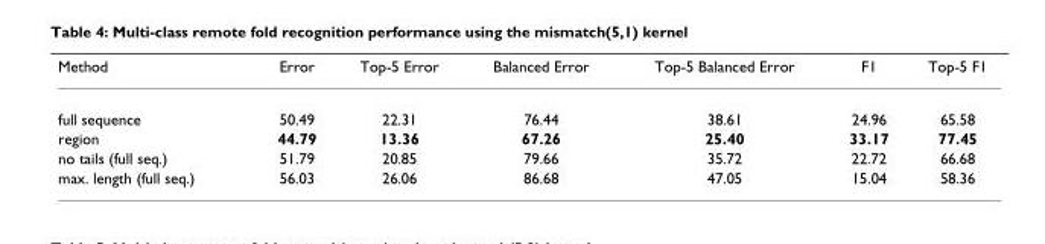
<table><thead><tr><td>Method</td><td>Error</td><td>Top-5 Error</td><td>Balanced Error</td><td>Top-5 Balanced Error</td><td>F1</td><td>Top-5 F1</td></tr></thead><tbody><tr><td>full sequence</td><td>50.49</td><td>22.31</td><td>76.44</td><td>38.61</td><td>24.96</td><td>65.58</td></tr><tr><td>region</td><td>44.79</td><td>13.36</td><td>67.26</td><td>25.40</td><td>33.17</td><td>77.45</td></tr><tr><td>no tails (full seq.)</td><td>51.79</td><td>20.85</td><td>79.66</td><td>35.72</td><td>22.72</td><td>66.68</td></tr><tr><td>max. length (full seq.)</td><td>56.03</td><td>26.06</td><td>86.68</td><td>47.05</td><td>15.04</td><td>58.36</td></tr></tbody></table>